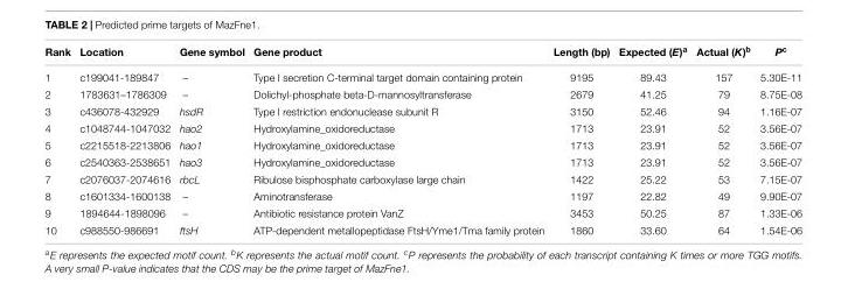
<table><thead><tr><td>Rank</td><td>Location</td><td>Gene symbol</td><td>Gene product</td><td>Length (bp)</td><td>Expected (E)<sup>a</sup></td><td>Actual (K)<sup>b</sup></td><td>P<sup>c</sup></td></tr></thead><tbody><tr><td>1</td><td>c199041-189847</td><td>–</td><td>Type I secretion C-terminal target domain containing protein</td><td>9195</td><td>89.43</td><td>157</td><td>5.30E-11</td></tr><tr><td>2</td><td>1783631–1786309</td><td>–</td><td>Dolichyl-phosphate beta-D-mannosyltransferase</td><td>2679</td><td>41.25</td><td>79</td><td>8.75E-08</td></tr><tr><td>3</td><td>c436078-432929</td><td>hsdR</td><td>Type I restriction endonuclease subunit R</td><td>3150</td><td>52.46</td><td>94</td><td>1.16E-07</td></tr><tr><td>4</td><td>c1048744-1047032</td><td>hao2</td><td>Hydroxylamine_oxidoreductase</td><td>1713</td><td>23.91</td><td>52</td><td>3.56E-07</td></tr><tr><td>5</td><td>c2215518-2213806</td><td>hao1</td><td>Hydroxylamine_oxidoreductase</td><td>1713</td><td>23.91</td><td>52</td><td>3.56E-07</td></tr><tr><td>6</td><td>c2540363-2538651</td><td>hao3</td><td>Hydroxylamine_oxidoreductase</td><td>1713</td><td>23.91</td><td>52</td><td>3.56E-07</td></tr><tr><td>7</td><td>c2076037-2074616</td><td>rbcL</td><td>Ribulose bisphosphate carboxylase large chain</td><td>1422</td><td>25.22</td><td>53</td><td>7.15E-07</td></tr><tr><td>8</td><td>c1601334-1600138</td><td>–</td><td>Aminotransferase</td><td>1197</td><td>22.82</td><td>49</td><td>9.90E-07</td></tr><tr><td>9</td><td>1894644-1898096</td><td>–</td><td>Antibiotic resistance protein VanZ</td><td>3453</td><td>50.25</td><td>87</td><td>1.33E-06</td></tr><tr><td>10</td><td>c988550-986691</td><td>ftsH</td><td>ATP-dependent metallopeptidase FtsH/Yme1/Tma family protein</td><td>1860</td><td>33.60</td><td>64</td><td>1.54E-06</td></tr></tbody></table>